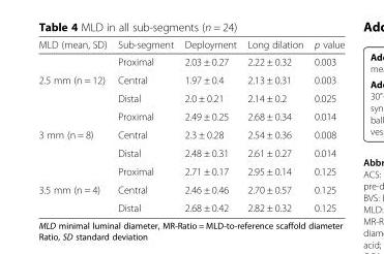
<table><thead><tr><td>MLD (mean, SD)</td><td>Sub-segment</td><td>Deployment</td><td>Long dilation</td><td>p value</td></tr></thead><tbody><tr><td></td><td>Proximal</td><td>2.03 ± 0.27</td><td>2.22 ± 0.32</td><td>0.003</td></tr><tr><td rowspan="3">2.5 mm (n = 12)</td><td>Central</td><td>1.97 ± 0.4</td><td>2.13 ± 0.31</td><td>0.003</td></tr><tr><td>Distal</td><td>2.0 ± 0.21</td><td>2.14 ± 0.2</td><td>0.025</td></tr><tr><td>Proximal</td><td>2.49 ± 0.25</td><td>2.68 ± 0.34</td><td>0.014</td></tr><tr><td rowspan="3">3 mm (n = 8)</td><td>Central</td><td>2.3 ± 0.28</td><td>2.54 ± 0.36</td><td>0.008</td></tr><tr><td>Distal</td><td>2.48 ± 0.31</td><td>2.61 ± 0.27</td><td>0.014</td></tr><tr><td>Proximal</td><td>2.71 ± 0.17</td><td>2.95 ± 0.14</td><td>0.125</td></tr><tr><td rowspan="2">3.5 mm (n = 4)</td><td>Central</td><td>2.46 ± 0.46</td><td>2.70 ± 0.57</td><td>0.125</td></tr><tr><td>Distal</td><td>2.68 ± 0.42</td><td>2.82 ± 0.32</td><td>0.125</td></tr></tbody></table>